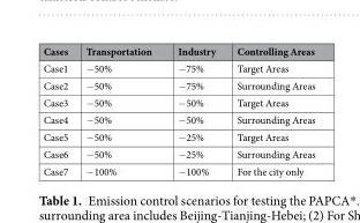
<table><thead><tr><td>Cases</td><td>Transportation</td><td>Industry</td><td>Controlling Areas</td></tr></thead><tbody><tr><td>Case1</td><td>−50%</td><td>−75%</td><td>Target Areas</td></tr><tr><td>Case2</td><td>−50%</td><td>−75%</td><td>Surrounding Areas</td></tr><tr><td>Case3</td><td>−50%</td><td>−50%</td><td>Target Areas</td></tr><tr><td>Case4</td><td>−50%</td><td>−50%</td><td>Surrounding Areas</td></tr><tr><td>Case5</td><td>−50%</td><td>−25%</td><td>Target Areas</td></tr><tr><td>Case6</td><td>−50%</td><td>−25%</td><td>Surrounding Areas</td></tr><tr><td>Case7</td><td>−100%</td><td>−100%</td><td>For the city only</td></tr></tbody></table>